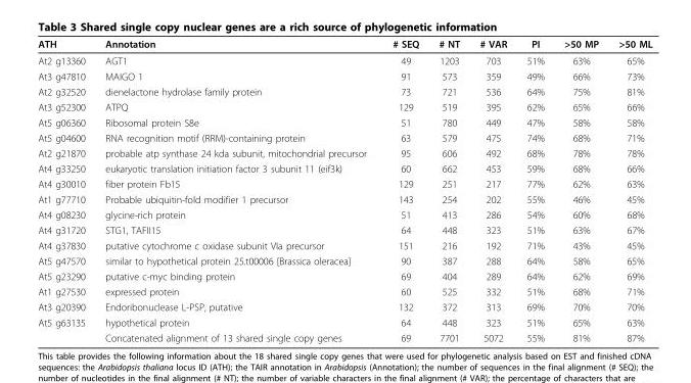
<table><thead><tr><td>ATH</td><td>Annotation</td><td># SEQ</td><td># NT</td><td># VAR</td><td>PI</td><td>&gt;50 MP</td><td>&gt;50 ML</td></tr></thead><tbody><tr><td>At2 g13360</td><td>AGT1</td><td>49</td><td>1203</td><td>703</td><td>51%</td><td>63%</td><td>65%</td></tr><tr><td>At3 g47810</td><td>MAIGO 1</td><td>91</td><td>573</td><td>359</td><td>49%</td><td>66%</td><td>73%</td></tr><tr><td>At2 g32520</td><td>dienelactone hydrolase family protein</td><td>73</td><td>721</td><td>536</td><td>64%</td><td>75%</td><td>81%</td></tr><tr><td>At3 g52300</td><td>ATPQ</td><td>129</td><td>519</td><td>395</td><td>62%</td><td>65%</td><td>66%</td></tr><tr><td>At5 g06360</td><td>Ribosomal protein S8e</td><td>51</td><td>780</td><td>449</td><td>47%</td><td>58%</td><td>58%</td></tr><tr><td>At5 g04600</td><td>RNA recognition motif (RRM)-containing protein</td><td>63</td><td>579</td><td>475</td><td>74%</td><td>68%</td><td>71%</td></tr><tr><td>At2 g21870</td><td>probable atp synthase 24 kda subunit, mitochondrial precursor</td><td>95</td><td>606</td><td>492</td><td>68%</td><td>78%</td><td>78%</td></tr><tr><td>At4 g33250</td><td>eukaryotic translation initiation factor 3 subunit 11 (eif3k)</td><td>60</td><td>662</td><td>453</td><td>59%</td><td>68%</td><td>66%</td></tr><tr><td>At4 g30010</td><td>fiber protein Fb15</td><td>129</td><td>251</td><td>217</td><td>77%</td><td>62%</td><td>63%</td></tr><tr><td>At1 g77710</td><td>Probable ubiquitin-fold modifier 1 precursor</td><td>143</td><td>254</td><td>202</td><td>55%</td><td>46%</td><td>45%</td></tr><tr><td>At4 g08230</td><td>glycine-rich protein</td><td>51</td><td>413</td><td>286</td><td>54%</td><td>60%</td><td>68%</td></tr><tr><td>At4 g31720</td><td>STG1, TAFII15</td><td>64</td><td>448</td><td>323</td><td>51%</td><td>63%</td><td>67%</td></tr><tr><td>At4 g37830</td><td>putative cytochrome c oxidase subunit VIa precursor</td><td>151</td><td>216</td><td>192</td><td>71%</td><td>43%</td><td>45%</td></tr><tr><td>At5 g47570</td><td>similar to hypothetical protein 25.t00006 [Brassica oleracea]</td><td>90</td><td>387</td><td>288</td><td>64%</td><td>58%</td><td>65%</td></tr><tr><td>At5 g23290</td><td>putative c-myc binding protein</td><td>69</td><td>404</td><td>289</td><td>64%</td><td>62%</td><td>69%</td></tr><tr><td>At1 g27530</td><td>expressed protein</td><td>60</td><td>525</td><td>332</td><td>51%</td><td>68%</td><td>71%</td></tr><tr><td>At3 g20390</td><td>Endoribonuclease L-PSP, putative</td><td>132</td><td>372</td><td>313</td><td>69%</td><td>70%</td><td>70%</td></tr><tr><td rowspan="2">At5 g63135</td><td>hypothetical protein</td><td>64</td><td>448</td><td>323</td><td>51%</td><td>65%</td><td>63%</td></tr><tr><td>Concatenated alignment of 13 shared single copy genes</td><td>69</td><td>7701</td><td>5072</td><td>55%</td><td>81%</td><td>87%</td></tr></tbody></table>